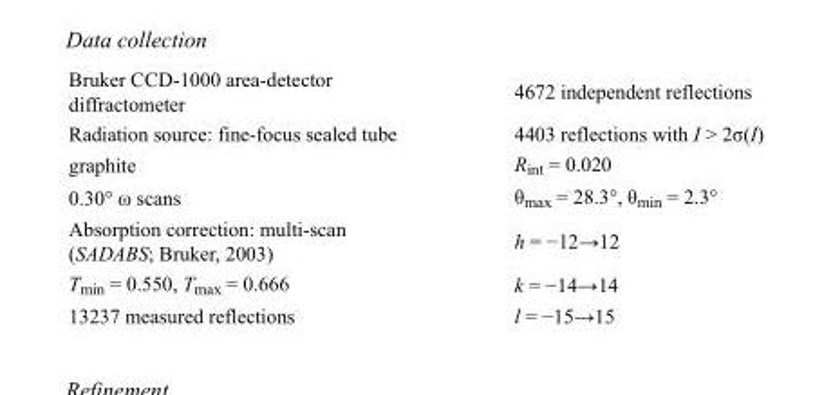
<table><tbody><tr><td>Bruker CCD-1000 area-detector diffractometer</td><td>4672 independent reflections</td></tr><tr><td>Radiation source: fine-focus sealed tube</td><td>4403 reflections with I &gt; 2σ(I)</td></tr><tr><td>graphite</td><td>R<sub>int</sub> = 0.020</td></tr><tr><td>0.30° ω scans</td><td>θ<sub>max</sub> = 28.3°, θ<sub>min</sub> = 2.3°</td></tr><tr><td>Absorption correction: multi-scan (SADABS; Bruker, 2003)</td><td>h = −12→12</td></tr><tr><td>T<sub>min</sub> = 0.550, T<sub>max</sub> = 0.666</td><td>k = −14→14</td></tr><tr><td>13237 measured reflections</td><td>l = −15→15</td></tr></tbody></table>